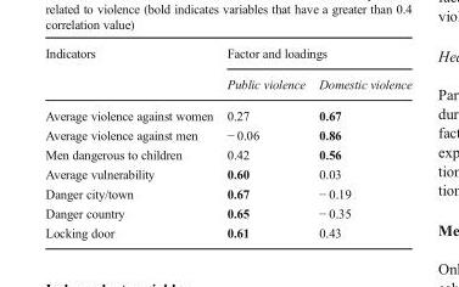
<table><thead><tr><td rowspan="2">Indicators</td><td colspan="2">Factor and loadings</td></tr><tr><td>Public violence</td><td>Domestic violence</td></tr></thead><tbody><tr><td>Average violence against women</td><td>0.27</td><td>0.67</td></tr><tr><td>Average violence against men</td><td>− 0.06</td><td>0.86</td></tr><tr><td>Men dangerous to children</td><td>0.42</td><td>0.56</td></tr><tr><td>Average vulnerability</td><td>0.60</td><td>0.03</td></tr><tr><td>Danger city/town</td><td>0.67</td><td>− 0.19</td></tr><tr><td>Danger country</td><td>0.65</td><td>− 0.35</td></tr><tr><td>Locking door</td><td>0.61</td><td>0.43</td></tr></tbody></table>